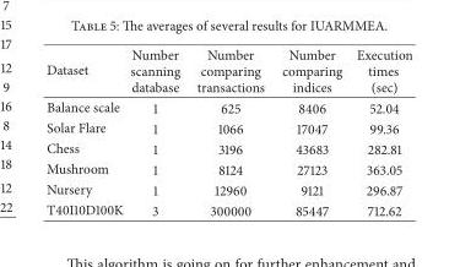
<table><thead><tr><td>Dataset</td><td>Number scanning database</td><td>Number comparing transactions</td><td>Number comparing indices</td><td>Execution times (sec)</td></tr></thead><tbody><tr><td>Balance scale</td><td>1</td><td>625</td><td>8406</td><td>52.04</td></tr><tr><td>Solar Flare</td><td>1</td><td>1066</td><td>17047</td><td>99.36</td></tr><tr><td>Chess</td><td>1</td><td>3196</td><td>43683</td><td>282.81</td></tr><tr><td>Mushroom</td><td>1</td><td>8124</td><td>27123</td><td>363.05</td></tr><tr><td>Nursery</td><td>1</td><td>12960</td><td>9121</td><td>296.87</td></tr><tr><td>T40I10D100K</td><td>3</td><td>300000</td><td>85447</td><td>712.62</td></tr></tbody></table>